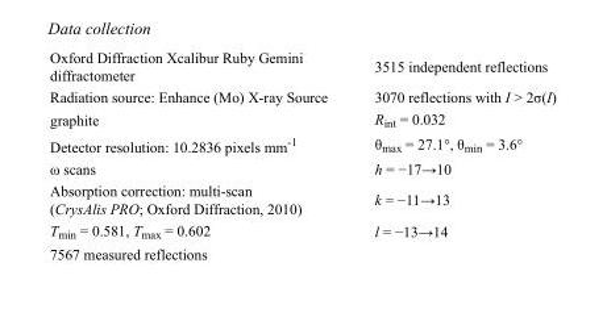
<table><tbody><tr><td>Oxford Diffraction Xcalibur Ruby Gemini diffractometer</td><td>3515 independent reflections</td></tr><tr><td>Radiation source: Enhance (Mo) X-ray Source</td><td>3070 reflections with I &gt; 2σ(I)</td></tr><tr><td>graphite</td><td>R<sub>int</sub> = 0.032</td></tr><tr><td>Detector resolution: 10.2836 pixels mm<sup>-1</sup></td><td>θ<sub>max</sub> = 27.1°, θ<sub>min</sub> = 3.6°</td></tr><tr><td>ω scans</td><td>h = −17→10</td></tr><tr><td>Absorption correction: multi-scan (CrysAlis PRO; Oxford Diffraction, 2010)</td><td>k = −11→13</td></tr><tr><td>T<sub>min</sub> = 0.581, T<sub>max</sub> = 0.602</td><td>l = −13→14</td></tr><tr><td>7567 measured reflections</td><td></td></tr></tbody></table>